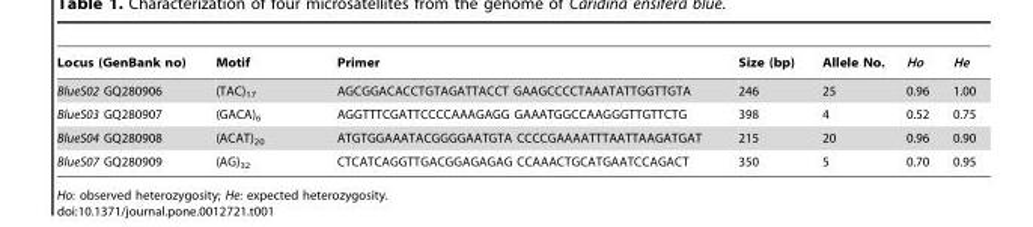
<table><thead><tr><td>Locus (GenBank no)</td><td>Motif</td><td>Primer</td><td>Size (bp)</td><td>Allele No.</td><td>Ho</td><td>He</td></tr></thead><tbody><tr><td>BlueS02 GQ280906</td><td>(TAC)<sub>17</sub></td><td>AGCGGACACCTGTAGATTACCT GAAGCCCCTAAATATTGGTTGTA</td><td>246</td><td>25</td><td>0.96</td><td>1.00</td></tr><tr><td>BlueS03 GQ280907</td><td>(GACA)<sub>6</sub></td><td>AGGTTTCGATTCCCCAAAGAGG GAAATGGCCAAGGGTTGTTCTG</td><td>398</td><td>4</td><td>0.52</td><td>0.75</td></tr><tr><td>BlueS04 GQ280908</td><td>(ACAT)<sub>20</sub></td><td>ATGTGGAAATACGGGGAATGTA CCCCGAAAATTTAATTAAGATGAT</td><td>215</td><td>20</td><td>0.96</td><td>0.90</td></tr><tr><td>BlueS07 GQ280909</td><td>(AG)<sub>32</sub></td><td>CTCATCAGGTTGACGGAGAGAG CCAAACTGCATGAATCCAGACT</td><td>350</td><td>5</td><td>0.70</td><td>0.95</td></tr></tbody></table>